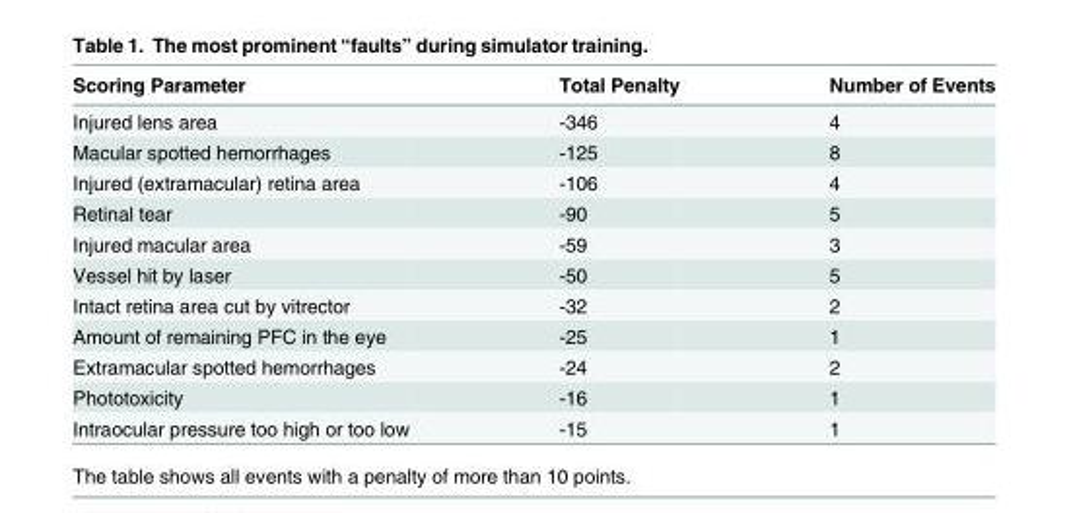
<table><thead><tr><td>Scoring Parameter</td><td>Total Penalty</td><td>Number of Events</td></tr></thead><tbody><tr><td>Injured lens area</td><td>-346</td><td>4</td></tr><tr><td>Macular spotted hemorrhages</td><td>-125</td><td>8</td></tr><tr><td>Injured (extramacular) retina area</td><td>-106</td><td>4</td></tr><tr><td>Retinal tear</td><td>-90</td><td>5</td></tr><tr><td>Injured macular area</td><td>-59</td><td>3</td></tr><tr><td>Vessel hit by laser</td><td>-50</td><td>5</td></tr><tr><td>Intact retina area cut by vitrector</td><td>-32</td><td>2</td></tr><tr><td>Amount of remaining PFC in the eye</td><td>-25</td><td>1</td></tr><tr><td>Extramacular spotted hemorrhages</td><td>-24</td><td>2</td></tr><tr><td>Phototoxicity</td><td>-16</td><td>1</td></tr><tr><td>Intraocular pressure too high or too low</td><td>-15</td><td>1</td></tr></tbody></table>